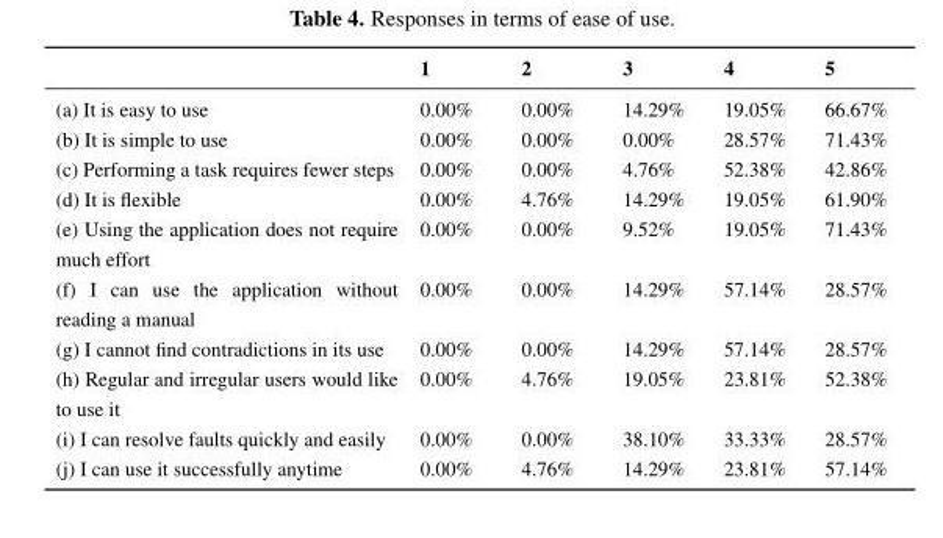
<table><thead><tr><td></td><td>1</td><td>2</td><td>3</td><td>4</td><td>5</td></tr></thead><tbody><tr><td>(a) It is easy to use</td><td>0.00%</td><td>0.00%</td><td>14.29%</td><td>19.05%</td><td>66.67%</td></tr><tr><td>(b) It is simple to use</td><td>0.00%</td><td>0.00%</td><td>0.00%</td><td>28.57%</td><td>71.43%</td></tr><tr><td>(c) Performing a task requires fewer steps</td><td>0.00%</td><td>0.00%</td><td>4.76%</td><td>52.38%</td><td>42.86%</td></tr><tr><td>(d) It is flexible</td><td>0.00%</td><td>4.76%</td><td>14.29%</td><td>19.05%</td><td>61.90%</td></tr><tr><td>(e) Using the application does not require much effort</td><td>0.00%</td><td>0.00%</td><td>9.52%</td><td>19.05%</td><td>71.43%</td></tr><tr><td>(f) I can use the application without reading a manual</td><td>0.00%</td><td>0.00%</td><td>14.29%</td><td>57.14%</td><td>28.57%</td></tr><tr><td>(g) I cannot find contradictions in its use</td><td>0.00%</td><td>0.00%</td><td>14.29%</td><td>57.14%</td><td>28.57%</td></tr><tr><td>(h) Regular and irregular users would like to use it</td><td>0.00%</td><td>4.76%</td><td>19.05%</td><td>23.81%</td><td>52.38%</td></tr><tr><td>(i) I can resolve faults quickly and easily</td><td>0.00%</td><td>0.00%</td><td>38.10%</td><td>33.33%</td><td>28.57%</td></tr><tr><td>(j) I can use it successfully anytime</td><td>0.00%</td><td>4.76%</td><td>14.29%</td><td>23.81%</td><td>57.14%</td></tr></tbody></table>